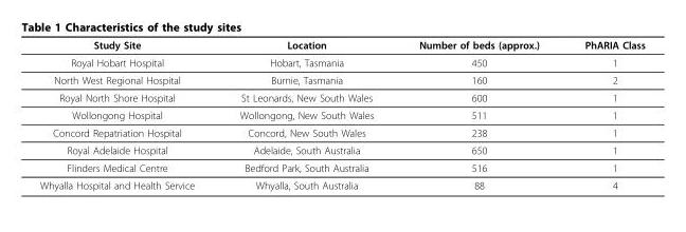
<table><thead><tr><td>Study Site</td><td>Location</td><td>Number of beds (approx.)</td><td>PhARIA Class</td></tr></thead><tbody><tr><td>Royal Hobart Hospital</td><td>Hobart, Tasmania</td><td>450</td><td>1</td></tr><tr><td>North West Regional Hospital</td><td>Burnie, Tasmania</td><td>160</td><td>2</td></tr><tr><td>Royal North Shore Hospital</td><td>St Leonards, New South Wales</td><td>600</td><td>1</td></tr><tr><td>Wollongong Hospital</td><td>Wollongong, New South Wales</td><td>511</td><td>1</td></tr><tr><td>Concord Repatriation Hospital</td><td>Concord, New South Wales</td><td>238</td><td>1</td></tr><tr><td>Royal Adelaide Hospital</td><td>Adelaide, South Australia</td><td>650</td><td>1</td></tr><tr><td>Flinders Medical Centre</td><td>Bedford Park, South Australia</td><td>516</td><td>1</td></tr><tr><td>Whyalla Hospital and Health Service</td><td>Whyalla, South Australia</td><td>88</td><td>4</td></tr></tbody></table>